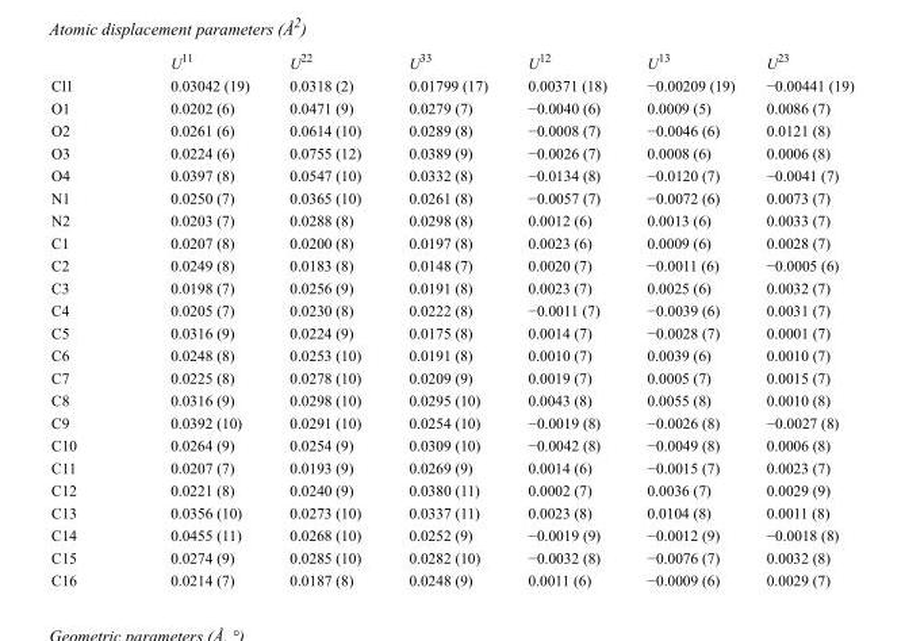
<table><thead><tr><td></td><td>U<sup>11</sup></td><td>U<sup>22</sup></td><td>U<sup>33</sup></td><td>U<sup>12</sup></td><td>U<sup>13</sup></td><td>U<sup>23</sup></td></tr></thead><tbody><tr><td>Cl1</td><td>0.03042 (19)</td><td>0.0318 (2)</td><td>0.01799 (17)</td><td>0.00371 (18)</td><td>−0.00209 (19)</td><td>−0.00441 (19)</td></tr><tr><td>O1</td><td>0.0202 (6)</td><td>0.0471 (9)</td><td>0.0279 (7)</td><td>−0.0040 (6)</td><td>0.0009 (5)</td><td>0.0086 (7)</td></tr><tr><td>O2</td><td>0.0261 (6)</td><td>0.0614 (10)</td><td>0.0289 (8)</td><td>−0.0008 (7)</td><td>−0.0046 (6)</td><td>0.0121 (8)</td></tr><tr><td>O3</td><td>0.0224 (6)</td><td>0.0755 (12)</td><td>0.0389 (9)</td><td>−0.0026 (7)</td><td>0.0008 (6)</td><td>0.0006 (8)</td></tr><tr><td>O4</td><td>0.0397 (8)</td><td>0.0547 (10)</td><td>0.0332 (8)</td><td>−0.0134 (8)</td><td>−0.0120 (7)</td><td>−0.0041 (7)</td></tr><tr><td>N1</td><td>0.0250 (7)</td><td>0.0365 (10)</td><td>0.0261 (8)</td><td>−0.0057 (7)</td><td>−0.0072 (6)</td><td>0.0073 (7)</td></tr><tr><td>N2</td><td>0.0203 (7)</td><td>0.0288 (8)</td><td>0.0298 (8)</td><td>0.0012 (6)</td><td>0.0013 (6)</td><td>0.0033 (7)</td></tr><tr><td>C1</td><td>0.0207 (8)</td><td>0.0200 (8)</td><td>0.0197 (8)</td><td>0.0023 (6)</td><td>0.0009 (6)</td><td>0.0028 (7)</td></tr><tr><td>C2</td><td>0.0249 (8)</td><td>0.0183 (8)</td><td>0.0148 (7)</td><td>0.0020 (7)</td><td>−0.0011 (6)</td><td>−0.0005 (6)</td></tr><tr><td>C3</td><td>0.0198 (7)</td><td>0.0256 (9)</td><td>0.0191 (8)</td><td>0.0023 (7)</td><td>0.0025 (6)</td><td>0.0032 (7)</td></tr><tr><td>C4</td><td>0.0205 (7)</td><td>0.0230 (8)</td><td>0.0222 (8)</td><td>−0.0011 (7)</td><td>−0.0039 (6)</td><td>0.0031 (7)</td></tr><tr><td>C5</td><td>0.0316 (9)</td><td>0.0224 (9)</td><td>0.0175 (8)</td><td>0.0014 (7)</td><td>−0.0028 (7)</td><td>0.0001 (7)</td></tr><tr><td>C6</td><td>0.0248 (8)</td><td>0.0253 (10)</td><td>0.0191 (8)</td><td>0.0010 (7)</td><td>0.0039 (6)</td><td>0.0010 (7)</td></tr><tr><td>C7</td><td>0.0225 (8)</td><td>0.0278 (10)</td><td>0.0209 (9)</td><td>0.0019 (7)</td><td>0.0005 (7)</td><td>0.0015 (7)</td></tr><tr><td>C8</td><td>0.0316 (9)</td><td>0.0298 (10)</td><td>0.0295 (10)</td><td>0.0043 (8)</td><td>0.0055 (8)</td><td>0.0010 (8)</td></tr><tr><td>C9</td><td>0.0392 (10)</td><td>0.0291 (10)</td><td>0.0254 (10)</td><td>−0.0019 (8)</td><td>−0.0026 (8)</td><td>−0.0027 (8)</td></tr><tr><td>C10</td><td>0.0264 (9)</td><td>0.0254 (9)</td><td>0.0309 (10)</td><td>−0.0042 (8)</td><td>−0.0049 (8)</td><td>0.0006 (8)</td></tr><tr><td>C11</td><td>0.0207 (7)</td><td>0.0193 (9)</td><td>0.0269 (9)</td><td>0.0014 (6)</td><td>−0.0015 (7)</td><td>0.0023 (7)</td></tr><tr><td>C12</td><td>0.0221 (8)</td><td>0.0240 (9)</td><td>0.0380 (11)</td><td>0.0002 (7)</td><td>0.0036 (7)</td><td>0.0029 (9)</td></tr><tr><td>C13</td><td>0.0356 (10)</td><td>0.0273 (10)</td><td>0.0337 (11)</td><td>0.0023 (8)</td><td>0.0104 (8)</td><td>0.0011 (8)</td></tr><tr><td>C14</td><td>0.0455 (11)</td><td>0.0268 (10)</td><td>0.0252 (9)</td><td>−0.0019 (9)</td><td>−0.0012 (9)</td><td>−0.0018 (8)</td></tr><tr><td>C15</td><td>0.0274 (9)</td><td>0.0285 (10)</td><td>0.0282 (10)</td><td>−0.0032 (8)</td><td>−0.0076 (7)</td><td>0.0032 (8)</td></tr><tr><td>C16</td><td>0.0214 (7)</td><td>0.0187 (8)</td><td>0.0248 (9)</td><td>0.0011 (6)</td><td>−0.0009 (6)</td><td>0.0029 (7)</td></tr></tbody></table>